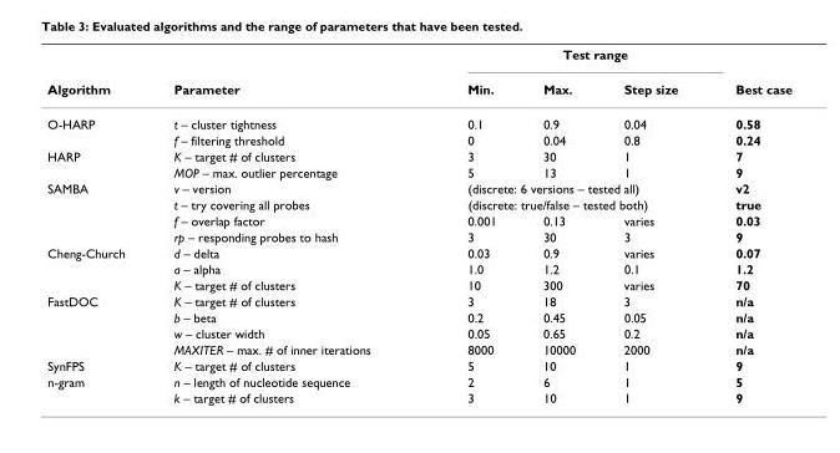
<table><thead><tr><td rowspan="2">Algorithm</td><td rowspan="2">Parameter</td><td colspan="3">Test range</td><td rowspan="2">Best case</td></tr><tr><td>Min.</td><td>Max.</td><td>Step size</td></tr></thead><tbody><tr><td rowspan="2">O-HARP</td><td>t – cluster tightness</td><td>0.1</td><td>0.9</td><td>0.04</td><td>0.58</td></tr><tr><td>f – filtering threshold</td><td>0</td><td>0.04</td><td>0.8</td><td>0.24</td></tr><tr><td rowspan="2">HARP</td><td>K – target # of clusters</td><td>3</td><td>30</td><td>1</td><td>7</td></tr><tr><td>MOP – max. outlier percentage</td><td>5</td><td>13</td><td>1</td><td>9</td></tr><tr><td rowspan="4">SAMBA</td><td>v – version</td><td colspan="3">(discrete: 6 versions – tested all)</td><td>v2</td></tr><tr><td>t – try covering all probes</td><td colspan="3">(discrete: true/false – tested both)</td><td>true</td></tr><tr><td>f – overlap factor</td><td>0.001</td><td>0.13</td><td>varies</td><td>0.03</td></tr><tr><td>rp – responding probes to hash</td><td>3</td><td>30</td><td>3</td><td>9</td></tr><tr><td rowspan="3">Cheng-Church</td><td>d – delta</td><td>0.03</td><td>0.9</td><td>varies</td><td>0.07</td></tr><tr><td>a – alpha</td><td>1.0</td><td>1.2</td><td>0.1</td><td>1.2</td></tr><tr><td>K – target # of clusters</td><td>10</td><td>300</td><td>varies</td><td>70</td></tr><tr><td rowspan="4">FastDOC</td><td>K – target # of clusters</td><td>3</td><td>18</td><td>3</td><td>n/a</td></tr><tr><td>b – beta</td><td>0.2</td><td>0.45</td><td>0.05</td><td>n/a</td></tr><tr><td>w – cluster width</td><td>0.05</td><td>0.65</td><td>0.2</td><td>n/a</td></tr><tr><td>MAXITER – max. # of inner iterations</td><td>8000</td><td>10000</td><td>2000</td><td>n/a</td></tr><tr><td>SynFPS</td><td>K – target # of clusters</td><td>5</td><td>10</td><td>1</td><td>9</td></tr><tr><td rowspan="2">n-gram</td><td>n – length of nucleotide sequence</td><td>2</td><td>6</td><td>1</td><td>5</td></tr><tr><td>k – target # of clusters</td><td>3</td><td>10</td><td>1</td><td>9</td></tr></tbody></table>